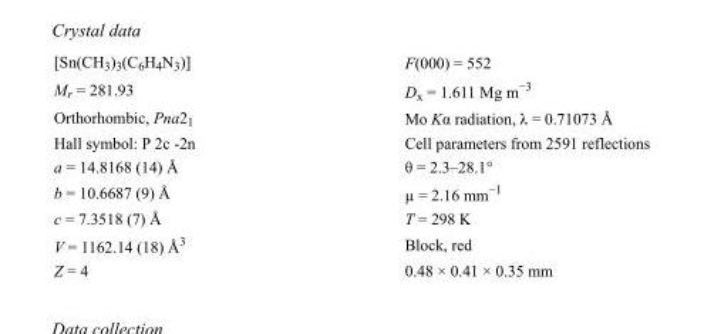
<table><tbody><tr><td>[Sn(CH<sub>3</sub>)<sub>3</sub>(C<sub>6</sub>H<sub>4</sub>N<sub>3</sub>)]</td><td>F(000) = 552</td></tr><tr><td>M<sub>r</sub> = 281.93</td><td>D<sub>x</sub> = 1.611 Mg m<sup>−3</sup></td></tr><tr><td>Orthorhombic, Pna2<sub>1</sub></td><td>Mo Kα radiation, λ = 0.71073 Å</td></tr><tr><td>Hall symbol: P 2c -2n</td><td>Cell parameters from 2591 reflections</td></tr><tr><td>a = 14.8168 (14) Å</td><td>θ = 2.3–28.1°</td></tr><tr><td>b = 10.6687 (9) Å</td><td>µ = 2.16 mm<sup>−1</sup></td></tr><tr><td>c = 7.3518 (7) Å</td><td>T = 298 K</td></tr><tr><td>V = 1162.14 (18) Å<sup>3</sup></td><td>Block, red</td></tr><tr><td>Z = 4</td><td>0.48 × 0.41 × 0.35 mm</td></tr></tbody></table>